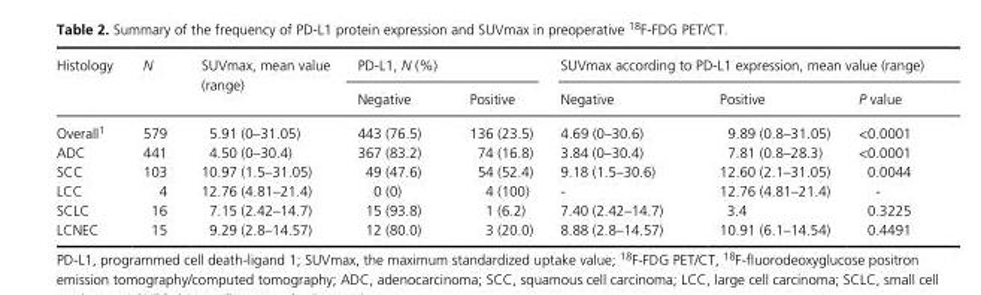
<table><thead><tr><td rowspan="2">Histology</td><td rowspan="2">N</td><td rowspan="2">SUVmax, mean value (range)</td><td colspan="2">PD- L1, N (%)</td><td colspan="3">SUVmax according to PD- L1 expression, mean value (range)</td></tr><tr><td>Negative</td><td>Positive</td><td>Negative</td><td>Positive</td><td>P value</td></tr></thead><tbody><tr><td>Overall1</td><td>579</td><td>5.91 (0–31.05)</td><td>443 (76.5)</td><td>136 (23.5)</td><td>4.69 (0–30.6)</td><td>9.89 (0.8–31.05)</td><td>&lt;0.0001</td></tr><tr><td>ADC</td><td>441</td><td>4.50 (0–30.4)</td><td>367 (83.2)</td><td>74 (16.8)</td><td>3.84 (0–30.4)</td><td>7.81 (0.8–28.3)</td><td>&lt;0.0001</td></tr><tr><td>SCC</td><td>103</td><td>10.97 (1.5–31.05)</td><td>49 (47.6)</td><td>54 (52.4)</td><td>9.18 (1.5–30.6)</td><td>12.60 (2.1–31.05)</td><td>0.0044</td></tr><tr><td>LCC</td><td>4</td><td>12.76 (4.81–21.4)</td><td>0 (0)</td><td>4 (100)</td><td>-</td><td>12.76 (4.81–21.4)</td><td>-</td></tr><tr><td>SCLC</td><td>16</td><td>7.15 (2.42–14.7)</td><td>15 (93.8)</td><td>1 (6.2)</td><td>7.40 (2.42–14.7)</td><td>3.4</td><td>0.3225</td></tr><tr><td>LCNEC</td><td>15</td><td>9.29 (2.8–14.57)</td><td>12 (80.0)</td><td>3 (20.0)</td><td>8.88 (2.8–14.57)</td><td>10.91 (6.1–14.54)</td><td>0.4491</td></tr></tbody></table>